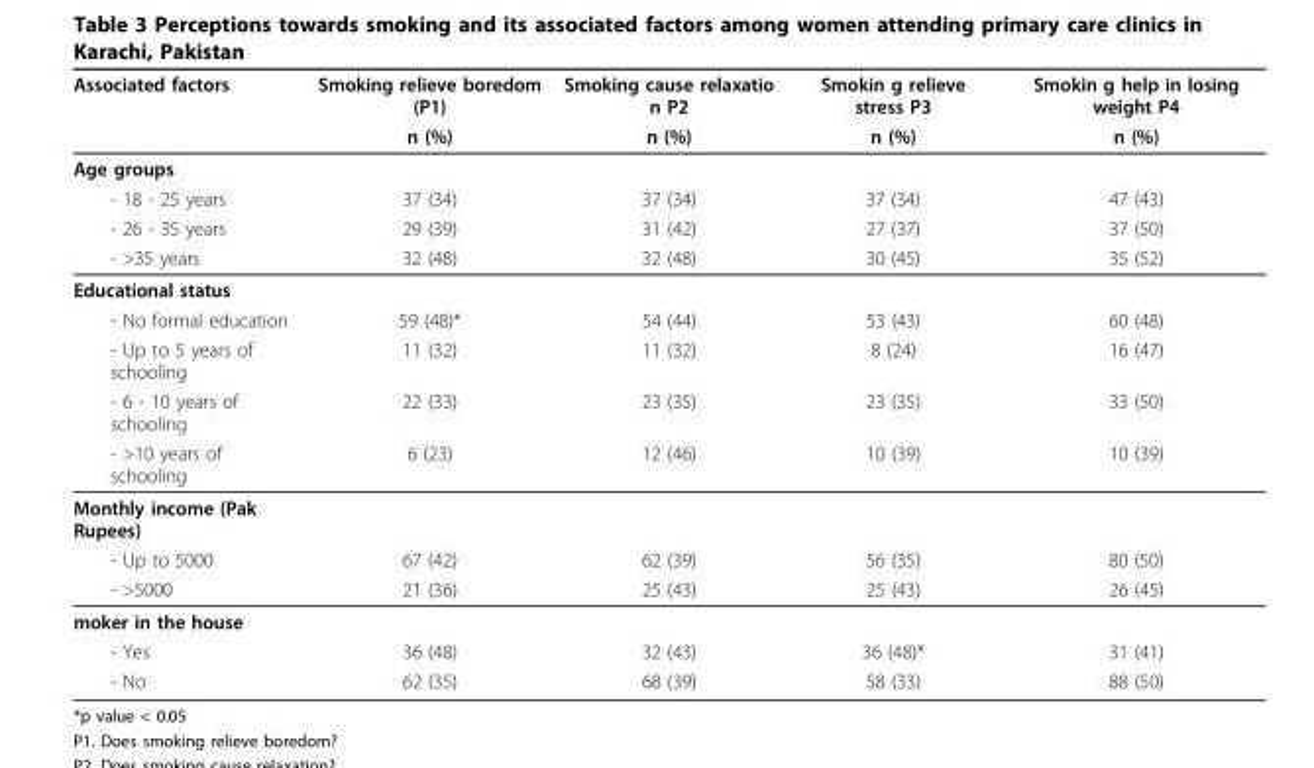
<table><thead><tr><td rowspan="2">Associated factors</td><td rowspan="2">Smoking relieve boredom (P1) n (%)</td><td rowspan="2">Smoking cause relaxatio n P2 n (%)</td><td rowspan="2">Smokin g relieve stress P3 n (%)</td><td rowspan="2">Smokin g help in losing weight P4 n (%)</td></tr><tr></tr></thead><tbody><tr><td colspan="5">Age groups</td></tr><tr><td>- 18 - 25 years</td><td>37 (34)</td><td>37 (34)</td><td>37 (34)</td><td>47 (43)</td></tr><tr><td>- 26 - 35 years</td><td>29 (39)</td><td>31 (42)</td><td>27 (37)</td><td>37 (50)</td></tr><tr><td>- &gt;35 years</td><td>32 (48)</td><td>32 (48)</td><td>30 (45)</td><td>35 (52)</td></tr><tr><td colspan="5">Educational status</td></tr><tr><td>- No formal education</td><td>59 (48)*</td><td>54 (44)</td><td>53 (43)</td><td>60 (48)</td></tr><tr><td>- Up to 5 years of schooling</td><td>11 (32)</td><td>11 (32)</td><td>8 (24)</td><td>16 (47)</td></tr><tr><td>- 6 - 10 years of schooling</td><td>22 (33)</td><td>23 (35)</td><td>23 (35)</td><td>33 (50)</td></tr><tr><td>- &gt;10 years of schooling</td><td>6 (23)</td><td>12 (46)</td><td>10 (39)</td><td>10 (39)</td></tr><tr><td colspan="5">Monthly income (Pak Rupees)</td></tr><tr><td>- Up to 5000</td><td>67 (42)</td><td>62 (39)</td><td>56 (35)</td><td>80 (50)</td></tr><tr><td>- &gt;5000</td><td>21 (36)</td><td>25 (43)</td><td>25 (43)</td><td>26 (45)</td></tr><tr><td colspan="5">moker in the house</td></tr><tr><td>- Yes</td><td>36 (48)</td><td>32 (43)</td><td>36 (48)*</td><td>31 (41)</td></tr><tr><td>- No</td><td>62 (35)</td><td>68 (39)</td><td>58 (33)</td><td>88 (50)</td></tr></tbody></table>